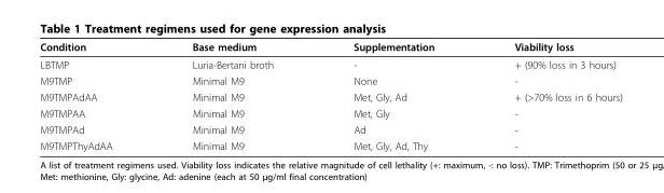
<table><thead><tr><td>Condition</td><td>Base medium</td><td>Supplementation</td><td>Viability loss</td></tr></thead><tbody><tr><td>LBTMP</td><td>Luria-Bertani broth</td><td>-</td><td>+ (90% loss in 3 hours)</td></tr><tr><td>M9TMP</td><td>Minimal M9</td><td>None</td><td>-</td></tr><tr><td>M9TMPAdAA</td><td>Minimal M9</td><td>Met, Gly, Ad</td><td>+ (&gt;70% loss in 6 hours)</td></tr><tr><td>M9TMPAA</td><td>Minimal M9</td><td>Met, Gly</td><td>-</td></tr><tr><td>M9TMPAd</td><td>Minimal M9</td><td>Ad</td><td>-</td></tr><tr><td>M9TMPThyAdAA</td><td>Minimal M9</td><td>Met, Gly, Ad, Thy</td><td>-</td></tr></tbody></table>